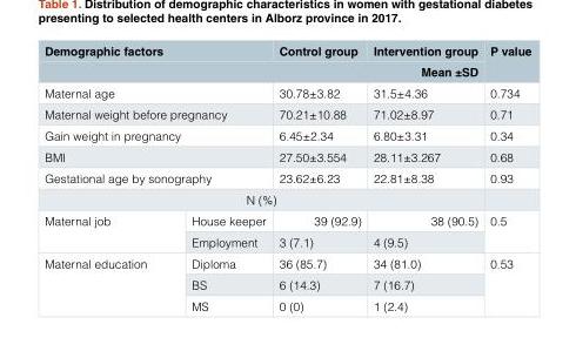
<table><thead><tr><td colspan="2">Demographic factors</td><td>Control group</td><td>Intervention group</td><td rowspan="2">P value</td></tr><tr><td colspan="4">Mean ±SD</td></tr></thead><tbody><tr><td colspan="2">Maternal age</td><td>30.78±3.82</td><td>31.5±4.36</td><td>0.734</td></tr><tr><td colspan="2">Maternal weight before pregnancy</td><td>70.21±10.88</td><td>71.02±8.97</td><td>0.71</td></tr><tr><td colspan="2">Gain weight in pregnancy</td><td>6.45±2.34</td><td>6.80±3.31</td><td>0.34</td></tr><tr><td colspan="2">BMI</td><td>27.50±3.554</td><td>28.11±3.267</td><td>0.68</td></tr><tr><td colspan="2">Gestational age by sonography</td><td>23.62±6.23</td><td>22.81±8.38</td><td>0.93</td></tr><tr><td colspan="5">N (%)</td></tr><tr><td rowspan="2">Maternal job</td><td>House keeper</td><td>39 (92.9)</td><td>38 (90.5)</td><td rowspan="2">0.5</td></tr><tr><td>Employment</td><td>3 (7.1)</td><td>4 (9.5)</td></tr><tr><td rowspan="3">Maternal education</td><td>Diploma</td><td>36 (85.7)</td><td>34 (81.0)</td><td rowspan="3">0.53</td></tr><tr><td>BS</td><td>6 (14.3)</td><td>7 (16.7)</td></tr><tr><td>MS</td><td>0 (0)</td><td>1 (2.4)</td></tr></tbody></table>